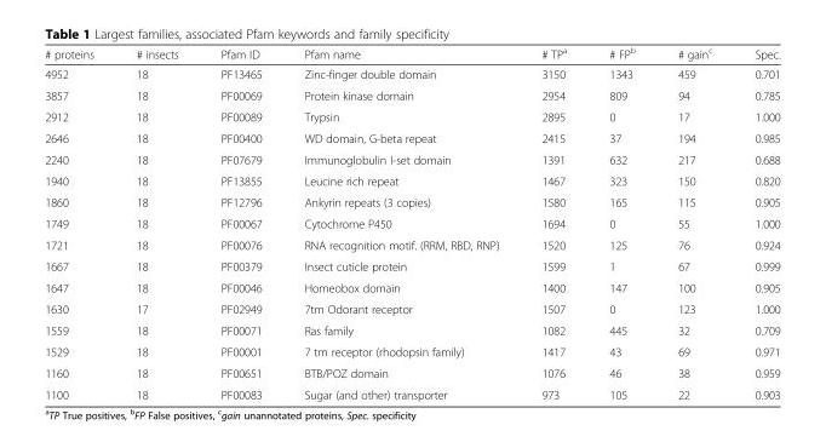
<table><thead><tr><td># proteins</td><td># insects</td><td>Pfam ID</td><td>Pfam name</td><td># TP<sup>a</sup></td><td># FP<sup>b</sup></td><td># gain<sup>c</sup></td><td>Spec.</td></tr></thead><tbody><tr><td>4952</td><td>18</td><td>PF13465</td><td>Zinc-finger double domain</td><td>3150</td><td>1343</td><td>459</td><td>0.701</td></tr><tr><td>3857</td><td>18</td><td>PF00069</td><td>Protein kinase domain</td><td>2954</td><td>809</td><td>94</td><td>0.785</td></tr><tr><td>2912</td><td>18</td><td>PF00089</td><td>Trypsin</td><td>2895</td><td>0</td><td>17</td><td>1.000</td></tr><tr><td>2646</td><td>18</td><td>PF00400</td><td>WD domain, G-beta repeat</td><td>2415</td><td>37</td><td>194</td><td>0.985</td></tr><tr><td>2240</td><td>18</td><td>PF07679</td><td>Immunoglobulin I-set domain</td><td>1391</td><td>632</td><td>217</td><td>0.688</td></tr><tr><td>1940</td><td>18</td><td>PF13855</td><td>Leucine rich repeat</td><td>1467</td><td>323</td><td>150</td><td>0.820</td></tr><tr><td>1860</td><td>18</td><td>PF12796</td><td>Ankyrin repeats (3 copies)</td><td>1580</td><td>165</td><td>115</td><td>0.905</td></tr><tr><td>1749</td><td>18</td><td>PF00067</td><td>Cytochrome P450</td><td>1694</td><td>0</td><td>55</td><td>1.000</td></tr><tr><td>1721</td><td>18</td><td>PF00076</td><td>RNA recognition motif. (RRM, RBD, RNP)</td><td>1520</td><td>125</td><td>76</td><td>0.924</td></tr><tr><td>1667</td><td>18</td><td>PF00379</td><td>Insect cuticle protein</td><td>1599</td><td>1</td><td>67</td><td>0.999</td></tr><tr><td>1647</td><td>18</td><td>PF00046</td><td>Homeobox domain</td><td>1400</td><td>147</td><td>100</td><td>0.905</td></tr><tr><td>1630</td><td>17</td><td>PF02949</td><td>7tm Odorant receptor</td><td>1507</td><td>0</td><td>123</td><td>1.000</td></tr><tr><td>1559</td><td>18</td><td>PF00071</td><td>Ras family</td><td>1082</td><td>445</td><td>32</td><td>0.709</td></tr><tr><td>1529</td><td>18</td><td>PF00001</td><td>7 tm receptor (rhodopsin family)</td><td>1417</td><td>43</td><td>69</td><td>0.971</td></tr><tr><td>1160</td><td>18</td><td>PF00651</td><td>BTB/POZ domain</td><td>1076</td><td>46</td><td>38</td><td>0.959</td></tr><tr><td>1100</td><td>18</td><td>PF00083</td><td>Sugar (and other) transporter</td><td>973</td><td>105</td><td>22</td><td>0.903</td></tr></tbody></table>